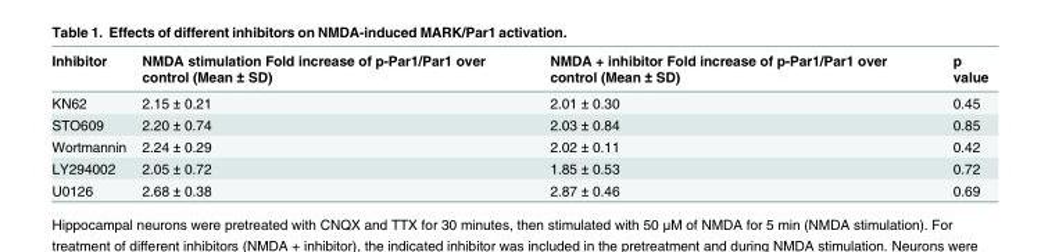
<table><thead><tr><td>Inhibitor</td><td>NMDA stimulation Fold increase of p-Par1/Par1 over control (Mean ± SD)</td><td>NMDA + inhibitor Fold increase of p-Par1/Par1 over control (Mean ± SD)</td><td>p value</td></tr></thead><tbody><tr><td>KN62</td><td>2.15 ± 0.21</td><td>2.01 ± 0.30</td><td>0.45</td></tr><tr><td>STO609</td><td>2.20 ± 0.74</td><td>2.03 ± 0.84</td><td>0.85</td></tr><tr><td>Wortmannin</td><td>2.24 ± 0.29</td><td>2.02 ± 0.11</td><td>0.42</td></tr><tr><td>LY294002</td><td>2.05 ± 0.72</td><td>1.85 ± 0.53</td><td>0.72</td></tr><tr><td>U0126</td><td>2.68 ± 0.38</td><td>2.87 ± 0.46</td><td>0.69</td></tr></tbody></table>